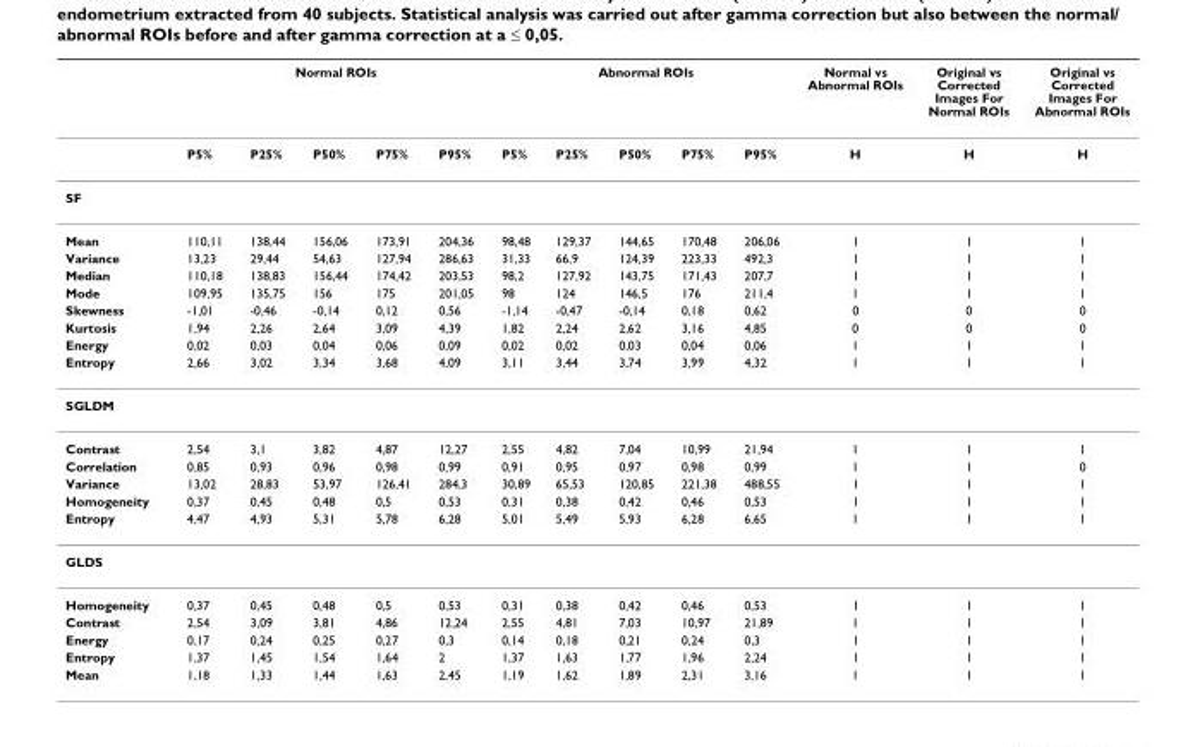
<table><thead><tr><td rowspan="2"></td><td colspan="5">Normal ROIs</td><td colspan="5">Abnormal ROIs</td><td rowspan="2">Normal vs Abnormal ROIs H</td><td rowspan="2">Original vs Corrected Images For Normal ROIs H</td><td rowspan="2">Original vs Corrected Images For Abnormal ROIs H</td></tr><tr><td>P5%</td><td>P25%</td><td>P50%</td><td>P75%</td><td>P95%</td><td>P5%</td><td>P25%</td><td>P50%</td><td>P75%</td><td>P95%</td></tr></thead><tbody><tr><td colspan="14">SF</td></tr><tr><td>Mean</td><td>110,11</td><td>138,44</td><td>156,06</td><td>173,91</td><td>204,36</td><td>98,48</td><td>129,37</td><td>144,65</td><td>170,48</td><td>206,06</td><td>1</td><td>1</td><td>1</td></tr><tr><td>Variance</td><td>13,23</td><td>29,44</td><td>54,63</td><td>127,94</td><td>286,63</td><td>31,33</td><td>66,9</td><td>124,39</td><td>223,33</td><td>492,3</td><td>1</td><td>1</td><td>1</td></tr><tr><td>Median</td><td>110,18</td><td>138,83</td><td>156,44</td><td>174,42</td><td>203,53</td><td>98,2</td><td>127,92</td><td>143,75</td><td>171,43</td><td>207,7</td><td>1</td><td>1</td><td>1</td></tr><tr><td>Mode</td><td>109,95</td><td>135,75</td><td>156</td><td>175</td><td>201,05</td><td>98</td><td>124</td><td>146,5</td><td>176</td><td>211,4</td><td>1</td><td>1</td><td>1</td></tr><tr><td>Skewness</td><td>-1,01</td><td>-0,46</td><td>-0,14</td><td>0,12</td><td>0,56</td><td>-1,14</td><td>-0,47</td><td>-0,14</td><td>0,18</td><td>0,62</td><td>0</td><td>0</td><td>0</td></tr><tr><td>Kurtosis</td><td>1,94</td><td>2,26</td><td>2,64</td><td>3,09</td><td>4,39</td><td>1,82</td><td>2,24</td><td>2,62</td><td>3,16</td><td>4,85</td><td>0</td><td>0</td><td>0</td></tr><tr><td>Energy</td><td>0,02</td><td>0,03</td><td>0,04</td><td>0,06</td><td>0,09</td><td>0,02</td><td>0,02</td><td>0,03</td><td>0,04</td><td>0,06</td><td>1</td><td>1</td><td>1</td></tr><tr><td>Entropy</td><td>2,66</td><td>3,02</td><td>3,34</td><td>3,68</td><td>4,09</td><td>3,11</td><td>3,44</td><td>3,74</td><td>3,99</td><td>4,32</td><td>1</td><td>1</td><td>1</td></tr><tr><td colspan="14">SGLDM</td></tr><tr><td>Contrast</td><td>2,54</td><td>3,1</td><td>3,82</td><td>4,87</td><td>12,27</td><td>2,55</td><td>4,82</td><td>7,04</td><td>10,99</td><td>21,94</td><td>1</td><td>1</td><td>1</td></tr><tr><td>Correlation</td><td>0,85</td><td>0,93</td><td>0,96</td><td>0,98</td><td>0,99</td><td>0,91</td><td>0,95</td><td>0,97</td><td>0,98</td><td>0,99</td><td>1</td><td>1</td><td>0</td></tr><tr><td>Variance</td><td>13,02</td><td>28,83</td><td>53,97</td><td>126,41</td><td>284,3</td><td>30,89</td><td>65,53</td><td>120,85</td><td>221,38</td><td>488,55</td><td>1</td><td>1</td><td>1</td></tr><tr><td>Homogeneity</td><td>0,37</td><td>0,45</td><td>0,48</td><td>0,5</td><td>0,53</td><td>0,31</td><td>0,38</td><td>0,42</td><td>0,46</td><td>0,53</td><td>1</td><td>1</td><td>1</td></tr><tr><td>Entropy</td><td>4,47</td><td>4,93</td><td>5,31</td><td>5,78</td><td>6,28</td><td>5,01</td><td>5,49</td><td>5,93</td><td>6,28</td><td>6,65</td><td>1</td><td>1</td><td>1</td></tr><tr><td colspan="14">GLDS</td></tr><tr><td>Homogeneity</td><td>0,37</td><td>0,45</td><td>0,48</td><td>0,5</td><td>0,53</td><td>0,31</td><td>0,38</td><td>0,42</td><td>0,46</td><td>0,53</td><td>1</td><td>1</td><td>1</td></tr><tr><td>Contrast</td><td>2,54</td><td>3,09</td><td>3,81</td><td>4,86</td><td>12,24</td><td>2,55</td><td>4,81</td><td>7,03</td><td>10,97</td><td>21,89</td><td>1</td><td>1</td><td>1</td></tr><tr><td>Energy</td><td>0,17</td><td>0,24</td><td>0,25</td><td>0,27</td><td>0,3</td><td>0,14</td><td>0,18</td><td>0,21</td><td>0,24</td><td>0,3</td><td>1</td><td>1</td><td>1</td></tr><tr><td>Entropy</td><td>1,37</td><td>1,45</td><td>1,54</td><td>1,64</td><td>2</td><td>1,37</td><td>1,63</td><td>1,77</td><td>1,96</td><td>2,24</td><td>1</td><td>1</td><td>1</td></tr><tr><td>Mean</td><td>1,18</td><td>1,33</td><td>1,44</td><td>1,63</td><td>2,45</td><td>1,19</td><td>1,62</td><td>1,89</td><td>2,31</td><td>3,16</td><td>1</td><td>1</td><td>1</td></tr></tbody></table>